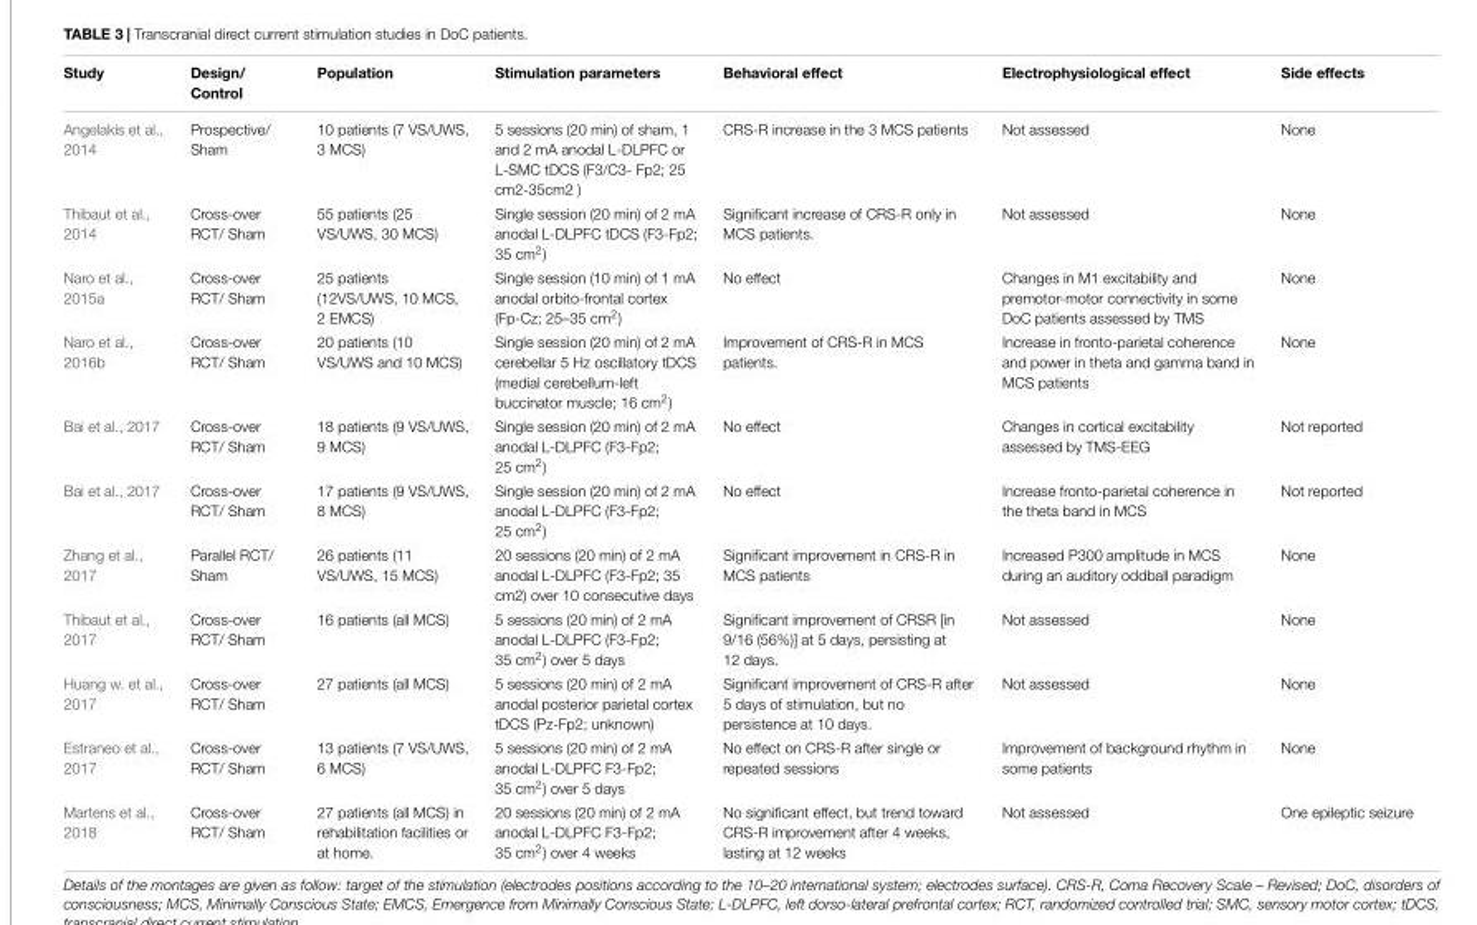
<table><thead><tr><td>Study</td><td>Design/ Control</td><td>Population</td><td>Stimulation parameters</td><td>Behavioral effect</td><td>Electrophysiological effect</td><td>Side effects</td></tr></thead><tbody><tr><td>Angelakis et al., 2014</td><td>Prospective/ Sham</td><td>10 patients (7 VS/UWS, 3 MCS)</td><td>5 sessions (20 min) of sham, 1 and 2 mA anodal L-DLPFC or L-SMC tDCS (F3/C3- Fp2; 25 cm2-35cm2 )</td><td>CRS-R increase in the 3 MCS patients</td><td>Not assessed</td><td>None</td></tr><tr><td>Thibaut et al., 2014</td><td>Cross-over RCT/ Sham</td><td>55 patients (25 VS/UWS, 30 MCS)</td><td>Single session (20 min) of 2 mA anodal L-DLPFC tDCS (F3-Fp2; 35 cm<sup>2</sup>)</td><td>Significant increase of CRS-R only in MCS patients.</td><td>Not assessed</td><td>None</td></tr><tr><td>Naro et al., 2015a</td><td>Cross-over RCT/ Sham</td><td>25 patients (12VS/UWS, 10 MCS, 2 EMCS)</td><td>Single session (10 min) of 1 mA anodal orbito-frontal cortex (Fp-Cz; 25–35 cm<sup>2</sup>)</td><td>No effect</td><td>Changes in M1 excitability and premotor-motor connectivity in some DoC patients assessed by TMS</td><td>None</td></tr><tr><td>Naro et al., 2016b</td><td>Cross-over RCT/ Sham</td><td>20 patients (10 VS/UWS and 10 MCS)</td><td>Single session (20 min) of 2 mA cerebellar 5 Hz oscillatory tDCS (medial cerebellum-left buccinator muscle; 16 cm<sup>2</sup>)</td><td>Improvement of CRS-R in MCS patients.</td><td>Increase in fronto-parietal coherence and power in theta and gamma band in MCS patients</td><td>None</td></tr><tr><td>Bai et al., 2017</td><td>Cross-over RCT/ Sham</td><td>18 patients (9 VS/UWS, 9 MCS)</td><td>Single session (20 min) of 2 mA anodal L-DLPFC (F3-Fp2; 25 cm<sup>2</sup>)</td><td>No effect</td><td>Changes in cortical excitability assessed by TMS-EEG</td><td>Not reported</td></tr><tr><td>Bai et al., 2017</td><td>Cross-over RCT/ Sham</td><td>17 patients (9 VS/UWS, 8 MCS)</td><td>Single session (20 min) of 2 mA anodal L-DLPFC (F3-Fp2; 25 cm<sup>2</sup>)</td><td>No effect</td><td>Increase fronto-parietal coherence in the theta band in MCS</td><td>Not reported</td></tr><tr><td>Zhang et al., 2017</td><td>Parallel RCT/ Sham</td><td>26 patients (11 VS/UWS, 15 MCS)</td><td>20 sessions (20 min) of 2 mA anodal L-DLPFC (F3-Fp2; 35 cm2) over 10 consecutive days</td><td>Significant improvement in CRS-R in MCS patients</td><td>Increased P300 amplitude in MCS during an auditory oddball paradigm</td><td>None</td></tr><tr><td>Thibaut et al., 2017</td><td>Cross-over RCT/ Sham</td><td>16 patients (all MCS)</td><td>5 sessions (20 min) of 2 mA anodal L-DLPFC (F3-Fp2; 35 cm<sup>2</sup>) over 5 days</td><td>Significant improvement of CRSR [in 9/16 (56%)] at 5 days, persisting at 12 days.</td><td>Not assessed</td><td>None</td></tr><tr><td>Huang w. et al., 2017</td><td>Cross-over RCT/ Sham</td><td>27 patients (all MCS)</td><td>5 sessions (20 min) of 2 mA anodal posterior parietal cortex tDCS (Pz-Fp2; unknown)</td><td>Significant improvement of CRS-R after 5 days of stimulation, but no persistence at 10 days.</td><td>Not assessed</td><td>None</td></tr><tr><td>Estraneo et al., 2017</td><td>Cross-over RCT/ Sham</td><td>13 patients (7 VS/UWS, 6 MCS)</td><td>5 sessions (20 min) of 2 mA anodal L-DLPFC F3-Fp2; 35 cm<sup>2</sup>) over 5 days</td><td>No effect on CRS-R after single or repeated sessions</td><td>Improvement of background rhythm in some patients</td><td>None</td></tr><tr><td>Martens et al., 2018</td><td>Cross-over RCT/ Sham</td><td>27 patients (all MCS) in rehabilitation facilities or at home.</td><td>20 sessions (20 min) of 2 mA anodal L-DLPFC F3-Fp2; 35 cm<sup>2</sup>) over 4 weeks</td><td>No significant effect, but trend toward CRS-R improvement after 4 weeks, lasting at 12 weeks</td><td>Not assessed</td><td>One epileptic seizure</td></tr></tbody></table>